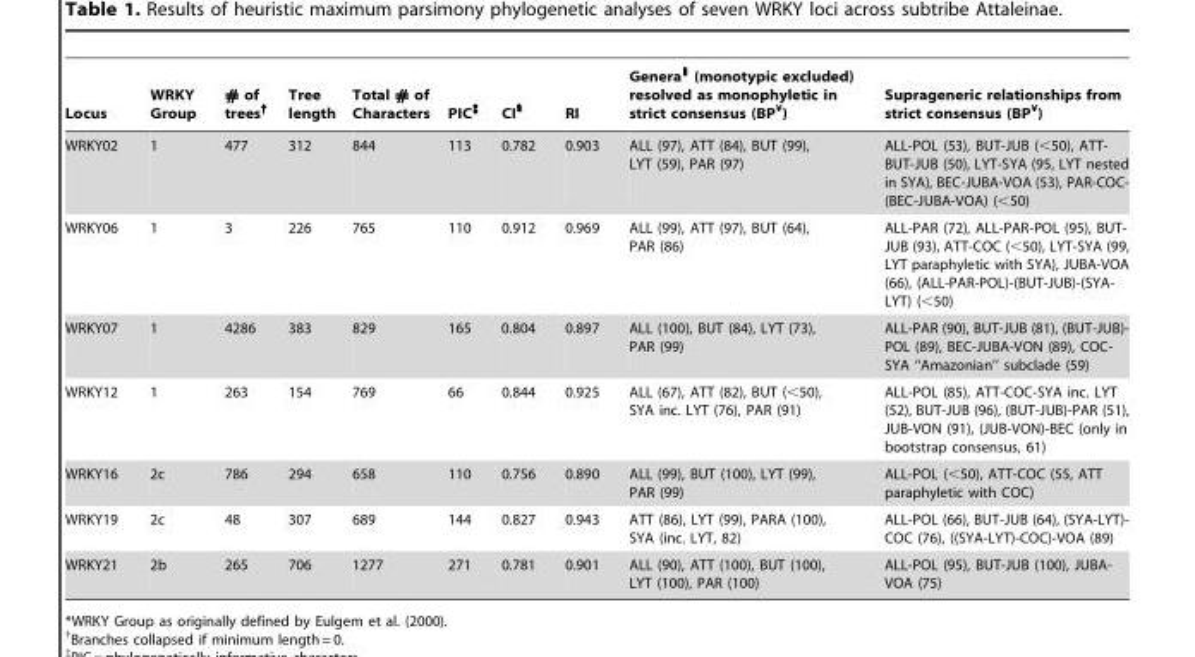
<table><thead><tr><td>Locus</td><td>WRKY Group</td><td># of trees†</td><td>Tree length</td><td>Total # of Characters</td><td>PIC‡</td><td>CI§</td><td>RI</td><td>Genera∥ (monotypic excluded) resolved as monophyletic in strict consensus (BP¥)</td><td>Suprageneric relationships from strict consensus (BP¥)</td></tr></thead><tbody><tr><td>WRKY02</td><td>1</td><td>477</td><td>312</td><td>844</td><td>113</td><td>0.782</td><td>0.903</td><td>ALL (97), ATT (84), BUT (99), LYT (59), PAR (97)</td><td>ALL-POL (53), BUT-JUB (&lt;50), ATT- BUT-JUB (50), LYT-SYA (95, LYT nested in SYA), BEC-JUBA-VOA (53), PAR-COC- (BEC-JUBA-VOA) (&lt;50)</td></tr><tr><td>WRKY06</td><td>1</td><td>3</td><td>226</td><td>765</td><td>110</td><td>0.912</td><td>0.969</td><td>ALL (99), ATT (97), BUT (64), PAR (86)</td><td>ALL-PAR (72), ALL-PAR-POL (95), BUT- JUB (93), ATT-COC (&lt;50), LYT-SYA (99, LYT paraphyletic with SYA), JUBA-VOA (66), (ALL-PAR-POL)-(BUT-JUB)-(SYA- LYT) (&lt;50)</td></tr><tr><td>WRKY07</td><td>1</td><td>4286</td><td>383</td><td>829</td><td>165</td><td>0.804</td><td>0.897</td><td>ALL (100), BUT (84), LYT (73), PAR (99)</td><td>ALL-PAR (90), BUT-JUB (81), (BUT-JUB)- POL (89), BEC-JUBA-VON (89), COC- SYA ‘‘Amazonian’’ subclade (59)</td></tr><tr><td>WRKY12</td><td>1</td><td>263</td><td>154</td><td>769</td><td>66</td><td>0.844</td><td>0.925</td><td>ALL (67), ATT (82), BUT (&lt;50), SYA inc. LYT (76), PAR (91)</td><td>ALL-POL (85), ATT-COC-SYA inc. LYT (52), BUT-JUB (96), (BUT-JUB)-PAR (51), JUB-VON (91), (JUB-VON)-BEC (only in bootstrap consensus, 61)</td></tr><tr><td>WRKY16</td><td>2c</td><td>786</td><td>294</td><td>658</td><td>110</td><td>0.756</td><td>0.890</td><td>ALL (99), BUT (100), LYT (99), PAR (99)</td><td>ALL-POL (&lt;50), ATT-COC (55, ATT paraphyletic with COC)</td></tr><tr><td>WRKY19</td><td>2c</td><td>48</td><td>307</td><td>689</td><td>144</td><td>0.827</td><td>0.943</td><td>ATT (86), LYT (99), PARA (100), SYA (inc. LYT, 82)</td><td>ALL-POL (66), BUT-JUB (64), (SYA-LYT)- COC (76), ((SYA-LYT)-COC)-VOA (89)</td></tr><tr><td>WRKY21</td><td>2b</td><td>265</td><td>706</td><td>1277</td><td>271</td><td>0.781</td><td>0.901</td><td>ALL (90), ATT (100), BUT (100), LYT (100), PAR (100)</td><td>ALL-POL (95), BUT-JUB (100), JUBA- VOA (75)</td></tr></tbody></table>